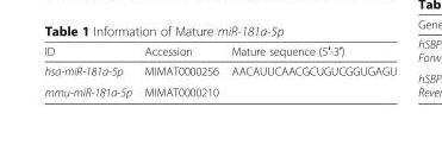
<table><thead><tr><td>ID</td><td>Accession</td><td>Mature sequence (5′-3′)</td></tr></thead><tbody><tr><td>hsa-miR-181a-5p</td><td>MIMAT0000256</td><td rowspan="2">AACAUUCAACGCUGUCGGUGAGU</td></tr><tr><td>mmu-miR-181a-5p</td><td>MIMAT0000210</td></tr></tbody></table>